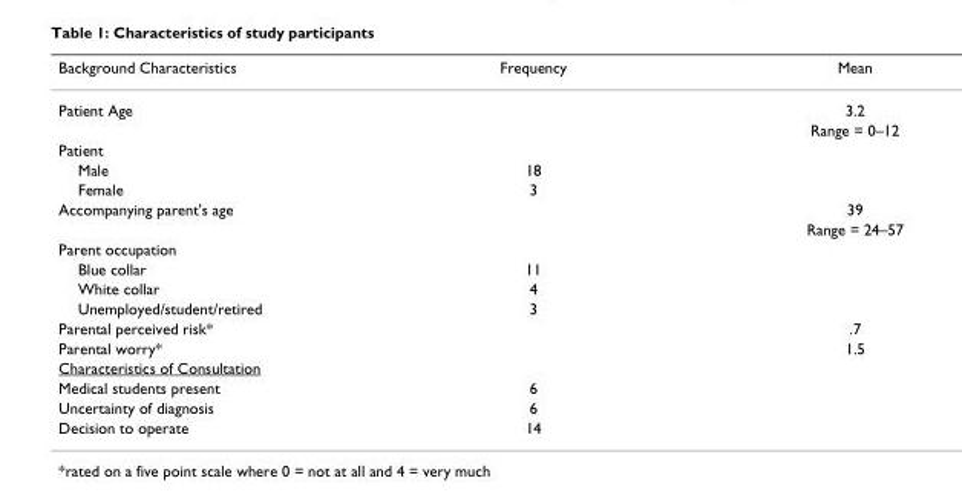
<table><thead><tr><td>Background Characteristics</td><td>Frequency</td><td>Mean</td></tr></thead><tbody><tr><td rowspan="2">Patient Age</td><td></td><td>3.2</td></tr><tr><td></td><td>Range = 0–12</td></tr><tr><td colspan="3">Patient</td></tr><tr><td>Male</td><td>18</td><td></td></tr><tr><td>Female</td><td>3</td><td></td></tr><tr><td rowspan="2">Accompanying parent&#x27;s age</td><td></td><td>39</td></tr><tr><td></td><td>Range = 24–57</td></tr><tr><td colspan="3">Parent occupation</td></tr><tr><td>Blue collar</td><td>11</td><td></td></tr><tr><td>White collar</td><td>4</td><td></td></tr><tr><td>Unemployed/student/retired</td><td>3</td><td></td></tr><tr><td>Parental perceived risk*</td><td></td><td>.7</td></tr><tr><td>Parental worry*</td><td></td><td>1.5</td></tr><tr><td colspan="3">Characteristics of Consultation</td></tr><tr><td>Medical students present</td><td>6</td><td></td></tr><tr><td>Uncertainty of diagnosis</td><td>6</td><td></td></tr><tr><td>Decision to operate</td><td>14</td><td></td></tr></tbody></table>